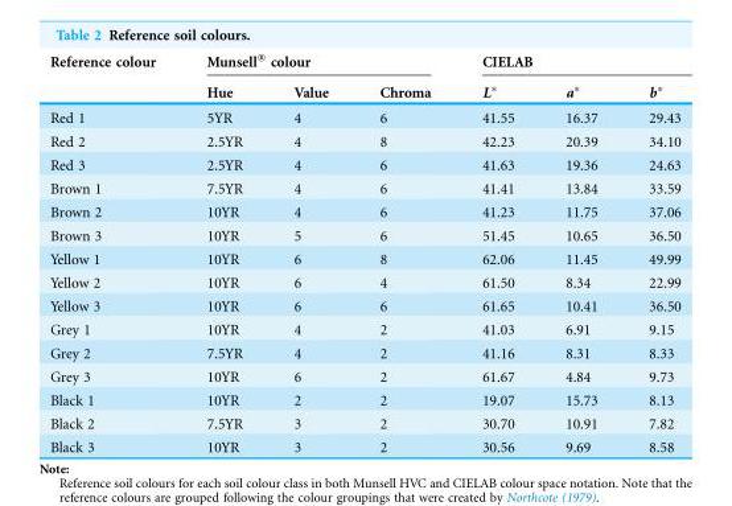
<table><thead><tr><td rowspan="2">Reference colour</td><td colspan="3">Munsell® colour</td><td colspan="3">CIELAB</td></tr><tr><td>Hue</td><td>Value</td><td>Chroma</td><td>L*</td><td>a*</td><td>b*</td></tr></thead><tbody><tr><td>Red 1</td><td>5YR</td><td>4</td><td>6</td><td>41.55</td><td>16.37</td><td>29.43</td></tr><tr><td>Red 2</td><td>2.5YR</td><td>4</td><td>8</td><td>42.23</td><td>20.39</td><td>34.10</td></tr><tr><td>Red 3</td><td>2.5YR</td><td>4</td><td>6</td><td>41.63</td><td>19.36</td><td>24.63</td></tr><tr><td>Brown 1</td><td>7.5YR</td><td>4</td><td>6</td><td>41.41</td><td>13.84</td><td>33.59</td></tr><tr><td>Brown 2</td><td>10YR</td><td>4</td><td>6</td><td>41.23</td><td>11.75</td><td>37.06</td></tr><tr><td>Brown 3</td><td>10YR</td><td>5</td><td>6</td><td>51.45</td><td>10.65</td><td>36.50</td></tr><tr><td>Yellow 1</td><td>10YR</td><td>6</td><td>8</td><td>62.06</td><td>11.45</td><td>49.99</td></tr><tr><td>Yellow 2</td><td>10YR</td><td>6</td><td>4</td><td>61.50</td><td>8.34</td><td>22.99</td></tr><tr><td>Yellow 3</td><td>10YR</td><td>6</td><td>6</td><td>61.65</td><td>10.41</td><td>36.50</td></tr><tr><td>Grey 1</td><td>10YR</td><td>4</td><td>2</td><td>41.03</td><td>6.91</td><td>9.15</td></tr><tr><td>Grey 2</td><td>7.5YR</td><td>4</td><td>2</td><td>41.16</td><td>8.31</td><td>8.33</td></tr><tr><td>Grey 3</td><td>10YR</td><td>6</td><td>2</td><td>61.67</td><td>4.84</td><td>9.73</td></tr><tr><td>Black 1</td><td>10YR</td><td>2</td><td>2</td><td>19.07</td><td>15.73</td><td>8.13</td></tr><tr><td>Black 2</td><td>7.5YR</td><td>3</td><td>2</td><td>30.70</td><td>10.91</td><td>7.82</td></tr><tr><td>Black 3</td><td>10YR</td><td>3</td><td>2</td><td>30.56</td><td>9.69</td><td>8.58</td></tr></tbody></table>